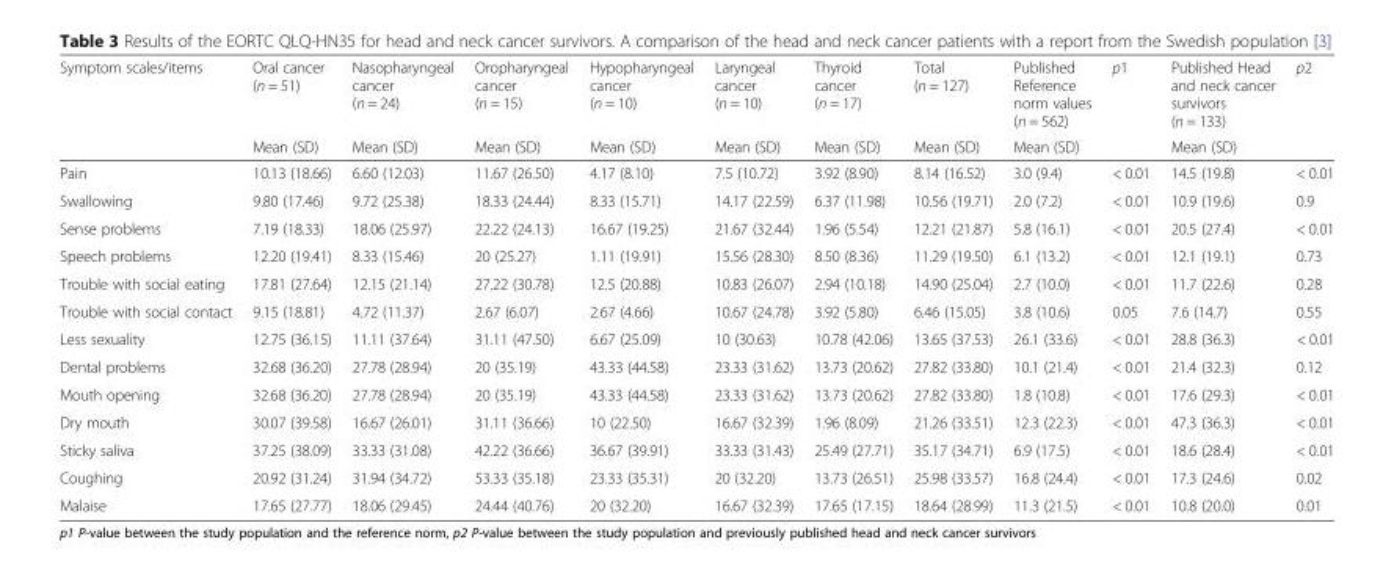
<table><thead><tr><td rowspan="2">Symptom scales/items</td><td rowspan="2">Oral cancer (n = 51) Mean (SD)</td><td rowspan="2">Nasopharyngeal cancer (n = 24) Mean (SD)</td><td rowspan="2">Oropharyngeal cancer (n = 15) Mean (SD)</td><td rowspan="2">Hypopharyngeal cancer (n = 10) Mean (SD)</td><td rowspan="2">Laryngeal cancer (n = 10) Mean (SD)</td><td rowspan="2">Thyroid cancer (n = 17) Mean (SD)</td><td rowspan="2">Total (n = 127) Mean (SD)</td><td rowspan="2">Published Reference norm values (n = 562) Mean (SD)</td><td rowspan="2">p1</td><td rowspan="2">Published Head and neck cancer survivors (n = 133) Mean (SD)</td><td rowspan="2">p2</td></tr><tr></tr></thead><tbody><tr><td>Pain</td><td>10.13 (18.66)</td><td>6.60 (12.03)</td><td>11.67 (26.50)</td><td>4.17 (8.10)</td><td>7.5 (10.72)</td><td>3.92 (8.90)</td><td>8.14 (16.52)</td><td>3.0 (9.4)</td><td>&lt; 0.01</td><td>14.5 (19.8)</td><td>&lt; 0.01</td></tr><tr><td>Swallowing</td><td>9.80 (17.46)</td><td>9.72 (25.38)</td><td>18.33 (24.44)</td><td>8.33 (15.71)</td><td>14.17 (22.59)</td><td>6.37 (11.98)</td><td>10.56 (19.71)</td><td>2.0 (7.2)</td><td>&lt; 0.01</td><td>10.9 (19.6)</td><td>0.9</td></tr><tr><td>Sense problems</td><td>7.19 (18.33)</td><td>18.06 (25.97)</td><td>22.22 (24.13)</td><td>16.67 (19.25)</td><td>21.67 (32.44)</td><td>1.96 (5.54)</td><td>12.21 (21.87)</td><td>5.8 (16.1)</td><td>&lt; 0.01</td><td>20.5 (27.4)</td><td>&lt; 0.01</td></tr><tr><td>Speech problems</td><td>12.20 (19.41)</td><td>8.33 (15.46)</td><td>20 (25.27)</td><td>1.11 (19.91)</td><td>15.56 (28.30)</td><td>8.50 (8.36)</td><td>11.29 (19.50)</td><td>6.1 (13.2)</td><td>&lt; 0.01</td><td>12.1 (19.1)</td><td>0.73</td></tr><tr><td>Trouble with social eating</td><td>17.81 (27.64)</td><td>12.15 (21.14)</td><td>27.22 (30.78)</td><td>12.5 (20.88)</td><td>10.83 (26.07)</td><td>2.94 (10.18)</td><td>14.90 (25.04)</td><td>2.7 (10.0)</td><td>&lt; 0.01</td><td>11.7 (22.6)</td><td>0.28</td></tr><tr><td>Trouble with social contact</td><td>9.15 (18.81)</td><td>4.72 (11.37)</td><td>2.67 (6.07)</td><td>2.67 (4.66)</td><td>10.67 (24.78)</td><td>3.92 (5.80)</td><td>6.46 (15.05)</td><td>3.8 (10.6)</td><td>0.05</td><td>7.6 (14.7)</td><td>0.55</td></tr><tr><td>Less sexuality</td><td>12.75 (36.15)</td><td>11.11 (37.64)</td><td>31.11 (47.50)</td><td>6.67 (25.09)</td><td>10 (30.63)</td><td>10.78 (42.06)</td><td>13.65 (37.53)</td><td>26.1 (33.6)</td><td>&lt; 0.01</td><td>28.8 (36.3)</td><td>&lt; 0.01</td></tr><tr><td>Dental problems</td><td>32.68 (36.20)</td><td>27.78 (28.94)</td><td>20 (35.19)</td><td>43.33 (44.58)</td><td>23.33 (31.62)</td><td>13.73 (20.62)</td><td>27.82 (33.80)</td><td>10.1 (21.4)</td><td>&lt; 0.01</td><td>21.4 (32.3)</td><td>0.12</td></tr><tr><td>Mouth opening</td><td>32.68 (36.20)</td><td>27.78 (28.94)</td><td>20 (35.19)</td><td>43.33 (44.58)</td><td>23.33 (31.62)</td><td>13.73 (20.62)</td><td>27.82 (33.80)</td><td>1.8 (10.8)</td><td>&lt; 0.01</td><td>17.6 (29.3)</td><td>&lt; 0.01</td></tr><tr><td>Dry mouth</td><td>30.07 (39.58)</td><td>16.67 (26.01)</td><td>31.11 (36.66)</td><td>10 (22.50)</td><td>16.67 (32.39)</td><td>1.96 (8.09)</td><td>21.26 (33.51)</td><td>12.3 (22.3)</td><td>&lt; 0.01</td><td>47.3 (36.3)</td><td>&lt; 0.01</td></tr><tr><td>Sticky saliva</td><td>37.25 (38.09)</td><td>33.33 (31.08)</td><td>42.22 (36.66)</td><td>36.67 (39.91)</td><td>33.33 (31.43)</td><td>25.49 (27.71)</td><td>35.17 (34.71)</td><td>6.9 (17.5)</td><td>&lt; 0.01</td><td>18.6 (28.4)</td><td>&lt; 0.01</td></tr><tr><td>Coughing</td><td>20.92 (31.24)</td><td>31.94 (34.72)</td><td>53.33 (35.18)</td><td>23.33 (35.31)</td><td>20 (32.20)</td><td>13.73 (26.51)</td><td>25.98 (33.57)</td><td>16.8 (24.4)</td><td>&lt; 0.01</td><td>17.3 (24.6)</td><td>0.02</td></tr><tr><td>Malaise</td><td>17.65 (27.77)</td><td>18.06 (29.45)</td><td>24.44 (40.76)</td><td>20 (32.20)</td><td>16.67 (32.39)</td><td>17.65 (17.15)</td><td>18.64 (28.99)</td><td>11.3 (21.5)</td><td>&lt; 0.01</td><td>10.8 (20.0)</td><td>0.01</td></tr></tbody></table>